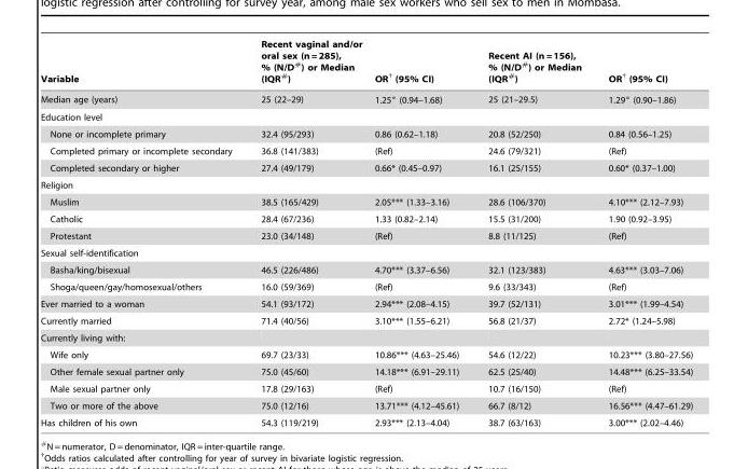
<table><thead><tr><td>Variable</td><td>Recent vaginal and/or oral sex (n = 285), % (N/D#) or Median (IQR#)</td><td>OR† (95% CI)</td><td>Recent AI (n = 156), % (N/D#) or Median (IQR#)</td><td>OR† (95% CI)</td></tr></thead><tbody><tr><td>Median age (years)</td><td>25 (22–29)</td><td>1.25° (0.94–1.68)</td><td>25 (21–29.5)</td><td>1.29° (0.90–1.86)</td></tr><tr><td colspan="5">Education level</td></tr><tr><td>None or incomplete primary</td><td>32.4 (95/293)</td><td>0.86 (0.62–1.18)</td><td>20.8 (52/250)</td><td>0.84 (0.56–1.25)</td></tr><tr><td>Completed primary or incomplete secondary</td><td>36.8 (141/383)</td><td>(Ref)</td><td>24.6 (79/321)</td><td>(Ref)</td></tr><tr><td>Completed secondary or higher</td><td>27.4 (49/179)</td><td>0.66* (0.45–0.97)</td><td>16.1 (25/155)</td><td>0.60* (0.37–1.00)</td></tr><tr><td colspan="5">Religion</td></tr><tr><td>Muslim</td><td>38.5 (165/429)</td><td>2.05*** (1.33–3.16)</td><td>28.6 (106/370)</td><td>4.10*** (2.12–7.93)</td></tr><tr><td>Catholic</td><td>28.4 (67/236)</td><td>1.33 (0.82–2.14)</td><td>15.5 (31/200)</td><td>1.90 (0.92–3.95)</td></tr><tr><td>Protestant</td><td>23.0 (34/148)</td><td>(Ref)</td><td>8.8 (11/125)</td><td>(Ref)</td></tr><tr><td colspan="5">Sexual self-identification</td></tr><tr><td>Basha/king/bisexual</td><td>46.5 (226/486)</td><td>4.70*** (3.37–6.56)</td><td>32.1 (123/383)</td><td>4.63*** (3.03–7.06)</td></tr><tr><td>Shoga/queen/gay/homosexual/others</td><td>16.0 (59/369)</td><td>(Ref)</td><td>9.6 (33/343)</td><td>(Ref)</td></tr><tr><td>Ever married to a woman</td><td>54.1 (93/172)</td><td>2.94*** (2.08–4.15)</td><td>39.7 (52/131)</td><td>3.01*** (1.99–4.54)</td></tr><tr><td>Currently married</td><td>71.4 (40/56)</td><td>3.10*** (1.55–6.21)</td><td>56.8 (21/37)</td><td>2.72* (1.24–5.98)</td></tr><tr><td colspan="5">Currently living with:</td></tr><tr><td>Wife only</td><td>69.7 (23/33)</td><td>10.86*** (4.63–25.46)</td><td>54.6 (12/22)</td><td>10.23*** (3.80–27.56)</td></tr><tr><td>Other female sexual partner only</td><td>75.0 (45/60)</td><td>14.18*** (6.91–29.11)</td><td>62.5 (25/40)</td><td>14.48*** (6.25–33.54)</td></tr><tr><td>Male sexual partner only</td><td>17.8 (29/163)</td><td>(Ref)</td><td>10.7 (16/150)</td><td>(Ref)</td></tr><tr><td>Two or more of the above</td><td>75.0 (12/16)</td><td>13.71*** (4.12–45.61)</td><td>66.7 (8/12)</td><td>16.56*** (4.47–61.29)</td></tr><tr><td>Has children of his own</td><td>54.3 (119/219)</td><td>2.93*** (2.13–4.04)</td><td>38.7 (63/163)</td><td>3.00*** (2.02–4.46)</td></tr></tbody></table>